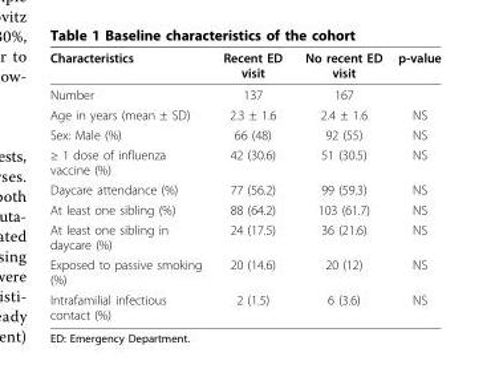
<table><thead><tr><td>Characteristics</td><td>Recent ED visit</td><td>No recent ED visit</td><td>p-value</td></tr></thead><tbody><tr><td>Number</td><td>137</td><td>167</td><td></td></tr><tr><td>Age in years (mean ± SD)</td><td>2.3 ± 1.6</td><td>2.4 ± 1.6</td><td>NS</td></tr><tr><td>Sex: Male (%)</td><td>66 (48)</td><td>92 (55)</td><td>NS</td></tr><tr><td>≥ 1 dose of influenza vaccine (%)</td><td>42 (30.6)</td><td>51 (30.5)</td><td>NS</td></tr><tr><td>Daycare attendance (%)</td><td>77 (56.2)</td><td>99 (59.3)</td><td>NS</td></tr><tr><td>At least one sibling (%)</td><td>88 (64.2)</td><td>103 (61.7)</td><td>NS</td></tr><tr><td>At least one sibling in daycare (%)</td><td>24 (17.5)</td><td>36 (21.6)</td><td>NS</td></tr><tr><td>Exposed to passive smoking (%)</td><td>20 (14.6)</td><td>20 (12)</td><td>NS</td></tr><tr><td>Intrafamilial infectious contact (%)</td><td>2 (1.5)</td><td>6 (3.6)</td><td>NS</td></tr></tbody></table>